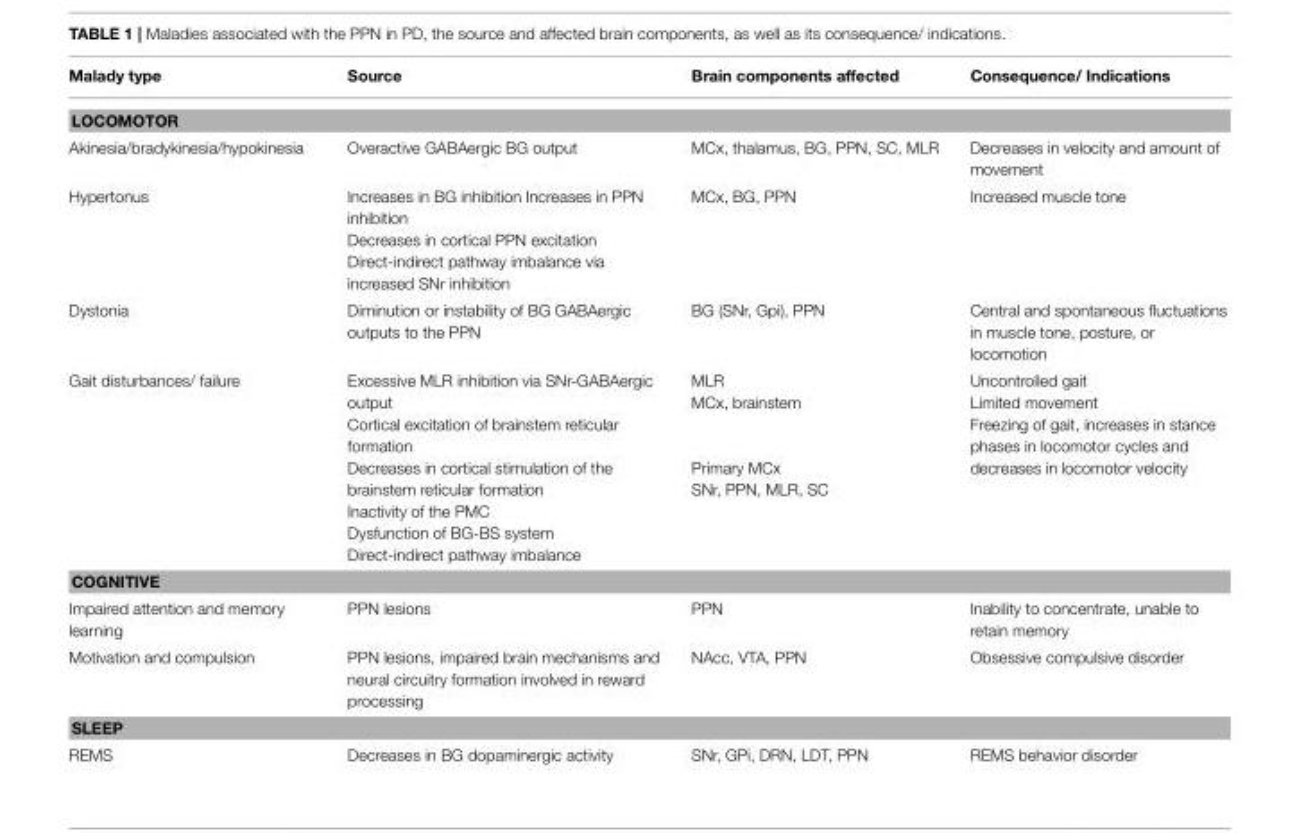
<table><thead><tr><td>Malady type</td><td>Source</td><td>Brain components affected</td><td>Consequence/ Indications</td></tr></thead><tbody><tr><td colspan="4">LOCOMOTOR</td></tr><tr><td>Akinesia/bradykinesia/hypokinesia</td><td>Overactive GABAergic BG output</td><td>MCx, thalamus, BG, PPN, SC, MLR</td><td>Decreases in velocity and amount of movement</td></tr><tr><td>Hypertonus</td><td>Increases in BG inhibition Increases in PPN inhibition Decreases in cortical PPN excitation Direct-indirect pathway imbalance via increased SNr inhibition</td><td>MCx, BG, PPN</td><td>Increased muscle tone</td></tr><tr><td>Dystonia</td><td>Diminution or instability of BG GABAergic outputs to the PPN</td><td>BG (SNr, Gpi), PPN</td><td>Central and spontaneous fluctuations in muscle tone, posture, or locomotion</td></tr><tr><td>Gait disturbances/ failure</td><td>Excessive MLR inhibition via SNr-GABAergic output Cortical excitation of brainstem reticular formation Decreases in cortical stimulation of the brainstem reticular formation Inactivity of the PMC Dysfunction of BG-BS system Direct-indirect pathway imbalance</td><td>MLR MCx, brainstem Primary MCx SNr, PPN, MLR, SC</td><td>Uncontrolled gait Limited movement Freezing of gait, increases in stance phases in locomotor cycles and decreases in locomotor velocity</td></tr><tr><td colspan="4">COGNITIVE</td></tr><tr><td>Impaired attention and memory learning</td><td>PPN lesions</td><td>PPN</td><td>Inability to concentrate, unable to retain memory</td></tr><tr><td>Motivation and compulsion</td><td>PPN lesions, impaired brain mechanisms and neural circuitry formation involved in reward processing</td><td>NAcc, VTA, PPN</td><td>Obsessive compulsive disorder</td></tr><tr><td colspan="4">SLEEP</td></tr><tr><td>REMS</td><td>Decreases in BG dopaminergic activity</td><td>SNr, GPi, DRN, LDT, PPN</td><td>REMS behavior disorder</td></tr></tbody></table>